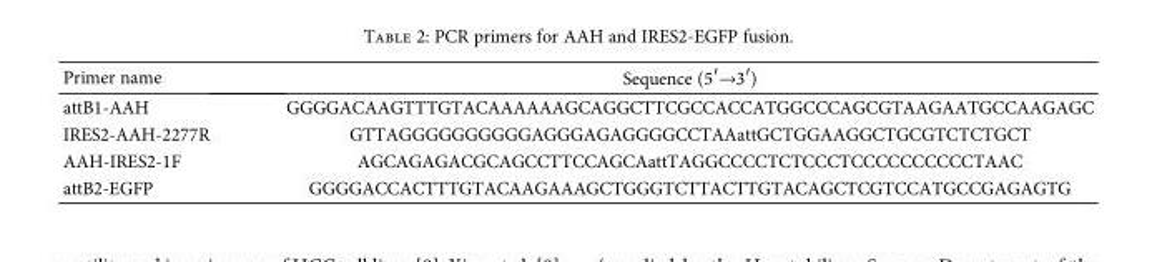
<table><thead><tr><td>Primer name</td><td>Sequence (5′→3′)</td></tr></thead><tbody><tr><td>attB1-AAH</td><td>GGGGACAAGTTTGTACAAAAAAGCAGGCTTCGCCACCATGGCCCAGCGTAAGAATGCCAAGAGC</td></tr><tr><td>IRES2-AAH-2277R</td><td>GTTAGGGGGGGGGGAGGGAGAGGGGCCTAAattGCTGGAAGGCTGCGTCTCTGCT</td></tr><tr><td>AAH-IRES2-1F</td><td>AGCAGAGACGCAGCCTTCCAGCAattTAGGCCCCTCTCCCTCCCCCCCCCCTAAC</td></tr><tr><td>attB2-EGFP</td><td>GGGGACCACTTTGTACAAGAAAGCTGGGTCTTACTTGTACAGCTCGTCCATGCCGAGAGTG</td></tr></tbody></table>